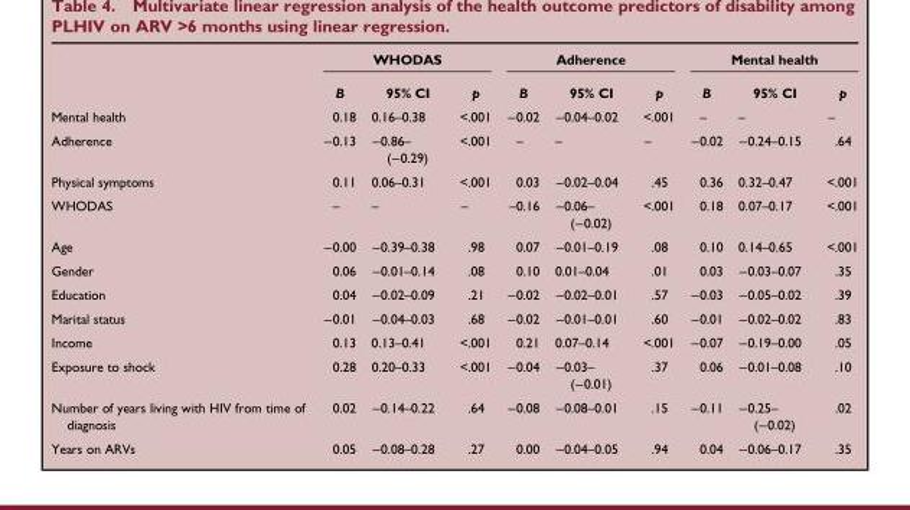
<table><thead><tr><td rowspan="2"></td><td colspan="3">WHODAS</td><td colspan="3">Adherence</td><td colspan="3">Mental health</td></tr><tr><td>B</td><td>95% CI</td><td>p</td><td>B</td><td>95% CI</td><td>p</td><td>B</td><td>95% CI</td><td>p</td></tr></thead><tbody><tr><td>Mental health</td><td>0.18</td><td>0.16–0.38</td><td>&lt;.001</td><td>−0.02</td><td>−0.04–0.02</td><td>&lt;.001</td><td>–</td><td>–</td><td>–</td></tr><tr><td>Adherence</td><td>−0.13</td><td>−0.86– (−0.29)</td><td>&lt;.001</td><td>–</td><td>–</td><td>–</td><td>−0.02</td><td>−0.24–0.15</td><td>.64</td></tr><tr><td>Physical symptoms</td><td>0.11</td><td>0.06–0.31</td><td>&lt;.001</td><td>0.03</td><td>−0.02–0.04</td><td>.45</td><td>0.36</td><td>0.32–0.47</td><td>&lt;.001</td></tr><tr><td>WHODAS</td><td>–</td><td>–</td><td>–</td><td>–0.16</td><td>−0.06– (−0.02)</td><td>&lt;.001</td><td>0.18</td><td>0.07–0.17</td><td>&lt;.001</td></tr><tr><td>Age</td><td>−0.00</td><td>−0.39–0.38</td><td>.98</td><td>0.07</td><td>−0.01–0.19</td><td>.08</td><td>0.10</td><td>0.14–0.65</td><td>&lt;.001</td></tr><tr><td>Gender</td><td>0.06</td><td>−0.01–0.14</td><td>.08</td><td>0.10</td><td>0.01–0.04</td><td>.01</td><td>0.03</td><td>−0.03–0.07</td><td>.35</td></tr><tr><td>Education</td><td>0.04</td><td>−0.02–0.09</td><td>.21</td><td>−0.02</td><td>−0.02–0.01</td><td>.57</td><td>−0.03</td><td>−0.05–0.02</td><td>.39</td></tr><tr><td>Marital status</td><td>−0.01</td><td>−0.04–0.03</td><td>.68</td><td>−0.02</td><td>−0.01–0.01</td><td>.60</td><td>−0.01</td><td>−0.02–0.02</td><td>.83</td></tr><tr><td>Income</td><td>0.13</td><td>0.13–0.41</td><td>&lt;.001</td><td>0.21</td><td>0.07–0.14</td><td>&lt;.001</td><td>−0.07</td><td>−0.19–0.00</td><td>.05</td></tr><tr><td>Exposure to shock</td><td>0.28</td><td>0.20–0.33</td><td>&lt;.001</td><td>−0.04</td><td>−0.03– (−0.01)</td><td>.37</td><td>0.06</td><td>−0.01–0.08</td><td>.10</td></tr><tr><td>Number of years living with HIV from time of diagnosis</td><td>0.02</td><td>−0.14–0.22</td><td>.64</td><td>−0.08</td><td>−0.08–0.01</td><td>.15</td><td>−0.11</td><td>−0.25– (−0.02)</td><td>.02</td></tr><tr><td>Years on ARVs</td><td>0.05</td><td>−0.08–0.28</td><td>.27</td><td>0.00</td><td>−0.04–0.05</td><td>.94</td><td>0.04</td><td>−0.06–0.17</td><td>.35</td></tr></tbody></table>